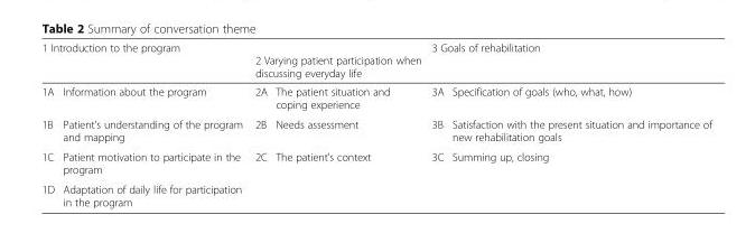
<table><thead><tr><td colspan="2">1 Introduction to the program</td><td colspan="2">2 Varying patient participation when discussing everyday life</td><td colspan="2">3 Goals of rehabilitation</td></tr><tr><td>1A</td><td>Information about the program</td><td>2A</td><td>The patient situation and coping experience</td><td>3A</td><td>Specification of goals (who, what, how)</td></tr></thead><tbody><tr><td>1B</td><td>Patient’s understanding of the program and mapping</td><td>2B</td><td>Needs assessment</td><td>3B</td><td>Satisfaction with the present situation and importance of new rehabilitation goals</td></tr><tr><td>1C</td><td>Patient motivation to participate in the program</td><td>2C</td><td>The patient’s context</td><td>3C</td><td>Summing up, closing</td></tr><tr><td>1D</td><td>Adaptation of daily life for participation in the program</td><td></td><td></td><td></td><td></td></tr></tbody></table>